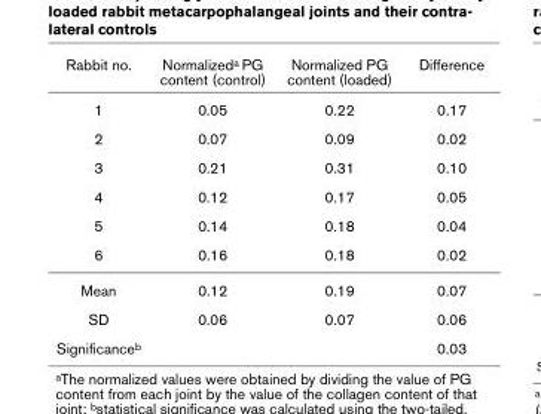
<table><thead><tr><td>Rabbit no.</td><td>Normalizeda PG content (control)</td><td>Normalized PG content (loaded)</td><td>Difference</td></tr></thead><tbody><tr><td>1</td><td>0.05</td><td>0.22</td><td>0.17</td></tr><tr><td>2</td><td>0.07</td><td>0.09</td><td>0.02</td></tr><tr><td>3</td><td>0.21</td><td>0.31</td><td>0.10</td></tr><tr><td>4</td><td>0.12</td><td>0.17</td><td>0.05</td></tr><tr><td>5</td><td>0.14</td><td>0.18</td><td>0.04</td></tr><tr><td>6</td><td>0.16</td><td>0.18</td><td>0.02</td></tr><tr><td>Mean</td><td>0.12</td><td>0.19</td><td>0.07</td></tr><tr><td>SD</td><td>0.06</td><td>0.07</td><td>0.06</td></tr><tr><td>Significanceb</td><td></td><td></td><td>0.03</td></tr></tbody></table>